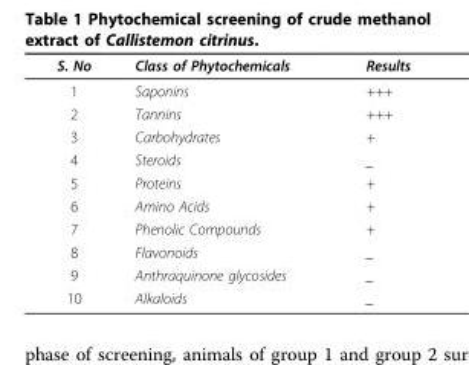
<table><thead><tr><td>S. No</td><td>Class of Phytochemicals</td><td>Results</td></tr></thead><tbody><tr><td>1</td><td>Saponins</td><td>+++</td></tr><tr><td>2</td><td>Tannins</td><td>+++</td></tr><tr><td>3</td><td>Carbohydrates</td><td>+</td></tr><tr><td>4</td><td>Steroids</td><td>_</td></tr><tr><td>5</td><td>Proteins</td><td>+</td></tr><tr><td>6</td><td>Amino Acids</td><td>+</td></tr><tr><td>7</td><td>Phenolic Compounds</td><td>+</td></tr><tr><td>8</td><td>Flavonoids</td><td>_</td></tr><tr><td>9</td><td>Anthraquinone glycosides</td><td>_</td></tr><tr><td>10</td><td>Alkaloids</td><td>_</td></tr></tbody></table>